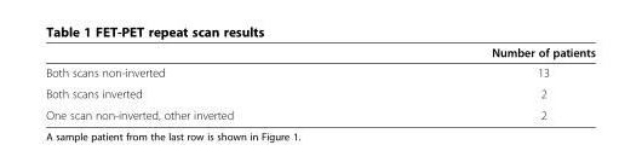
<table><thead><tr><td></td><td>Number of patients</td></tr></thead><tbody><tr><td>Both scans non-inverted</td><td>13</td></tr><tr><td>Both scans inverted</td><td>2</td></tr><tr><td>One scan non-inverted, other inverted</td><td>2</td></tr></tbody></table>